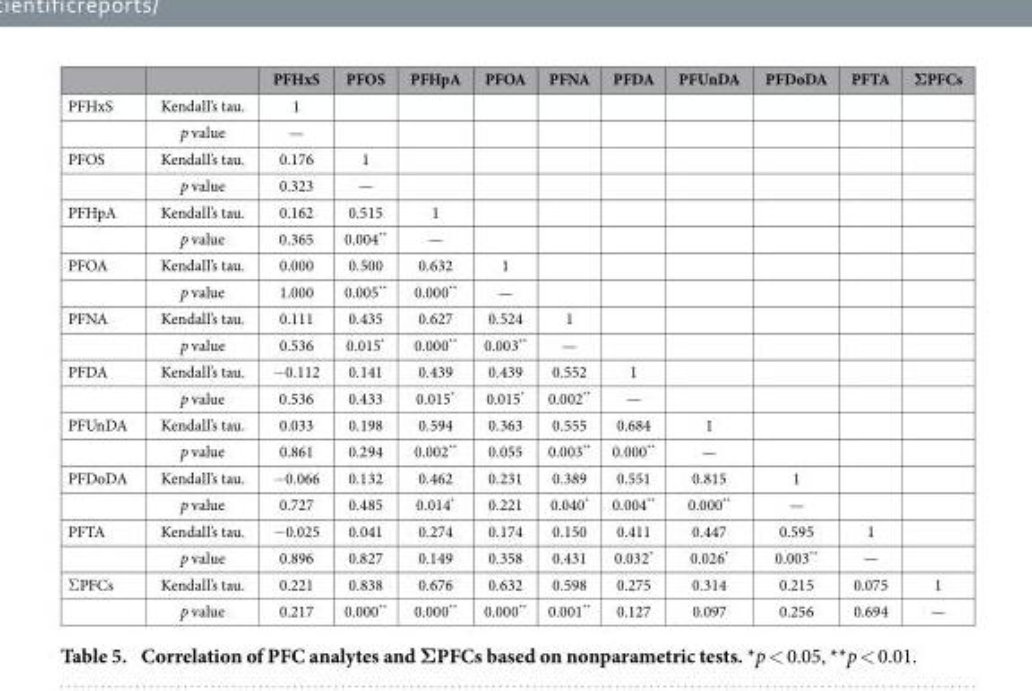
<table><thead><tr><td></td><td></td><td>PFHxS</td><td>PFOS</td><td>PFHpA</td><td>PFOA</td><td>PFNA</td><td>PFDA</td><td>PFUnDA</td><td>PFDoDA</td><td>PFTA</td><td>ΣPFCs</td></tr></thead><tbody><tr><td rowspan="2">PFHxS</td><td>Kendall’s tau.</td><td>1</td><td></td><td></td><td></td><td></td><td></td><td></td><td></td><td></td><td></td></tr><tr><td>p value</td><td>—</td><td></td><td></td><td></td><td></td><td></td><td></td><td></td><td></td><td></td></tr><tr><td rowspan="2">PFOS</td><td>Kendall’s tau.</td><td>0.176</td><td>1</td><td></td><td></td><td></td><td></td><td></td><td></td><td></td><td></td></tr><tr><td>p value</td><td>0.323</td><td>—</td><td></td><td></td><td></td><td></td><td></td><td></td><td></td><td></td></tr><tr><td rowspan="2">PFHpA</td><td>Kendall’s tau.</td><td>0.162</td><td>0.515</td><td>1</td><td></td><td></td><td></td><td></td><td></td><td></td><td></td></tr><tr><td>p value</td><td>0.365</td><td>0.004**</td><td>—</td><td></td><td></td><td></td><td></td><td></td><td></td><td></td></tr><tr><td rowspan="2">PFOA</td><td>Kendall’s tau.</td><td>0.000</td><td>0.500</td><td>0.632</td><td>1</td><td></td><td></td><td></td><td></td><td></td><td></td></tr><tr><td>p value</td><td>1.000</td><td>0.005**</td><td>0.000**</td><td>—</td><td></td><td></td><td></td><td></td><td></td><td></td></tr><tr><td rowspan="2">PFNA</td><td>Kendall’s tau.</td><td>0.111</td><td>0.435</td><td>0.627</td><td>0.524</td><td>1</td><td></td><td></td><td></td><td></td><td></td></tr><tr><td>p value</td><td>0.536</td><td>0.015*</td><td>0.000**</td><td>0.003**</td><td>—</td><td></td><td></td><td></td><td></td><td></td></tr><tr><td rowspan="2">PFDA</td><td>Kendall’s tau.</td><td>− 0.112</td><td>0.141</td><td>0.439</td><td>0.439</td><td>0.552</td><td>1</td><td></td><td></td><td></td><td></td></tr><tr><td>p value</td><td>0.536</td><td>0.433</td><td>0.015*</td><td>0.015*</td><td>0.002**</td><td>—</td><td></td><td></td><td></td><td></td></tr><tr><td rowspan="2">PFUnDA</td><td>Kendall’s tau.</td><td>0.033</td><td>0.198</td><td>0.594</td><td>0.363</td><td>0.555</td><td>0.684</td><td>1</td><td></td><td></td><td></td></tr><tr><td>p value</td><td>0.861</td><td>0.294</td><td>0.002**</td><td>0.055</td><td>0.003**</td><td>0.000**</td><td>—</td><td></td><td></td><td></td></tr><tr><td rowspan="2">PFDoDA</td><td>Kendall’s tau.</td><td>− 0.066</td><td>0.132</td><td>0.462</td><td>0.231</td><td>0.389</td><td>0.551</td><td>0.815</td><td>1</td><td></td><td></td></tr><tr><td>p value</td><td>0.727</td><td>0.485</td><td>0.014*</td><td>0.221</td><td>0.040*</td><td>0.004**</td><td>0.000**</td><td>—</td><td></td><td></td></tr><tr><td rowspan="2">PFTA</td><td>Kendall’s tau.</td><td>− 0.025</td><td>0.041</td><td>0.274</td><td>0.174</td><td>0.150</td><td>0.411</td><td>0.447</td><td>0.595</td><td>1</td><td></td></tr><tr><td>p value</td><td>0.896</td><td>0.827</td><td>0.149</td><td>0.358</td><td>0.431</td><td>0.032*</td><td>0.026*</td><td>0.003**</td><td>—</td><td></td></tr><tr><td rowspan="2">Σ PFCs</td><td>Kendall’s tau.</td><td>0.221</td><td>0.838</td><td>0.676</td><td>0.632</td><td>0.598</td><td>0.275</td><td>0.314</td><td>0.215</td><td>0.075</td><td>1</td></tr><tr><td>p value</td><td>0.217</td><td>0.000**</td><td>0.000**</td><td>0.000**</td><td>0.001**</td><td>0.127</td><td>0.097</td><td>0.256</td><td>0.694</td><td>—</td></tr></tbody></table>